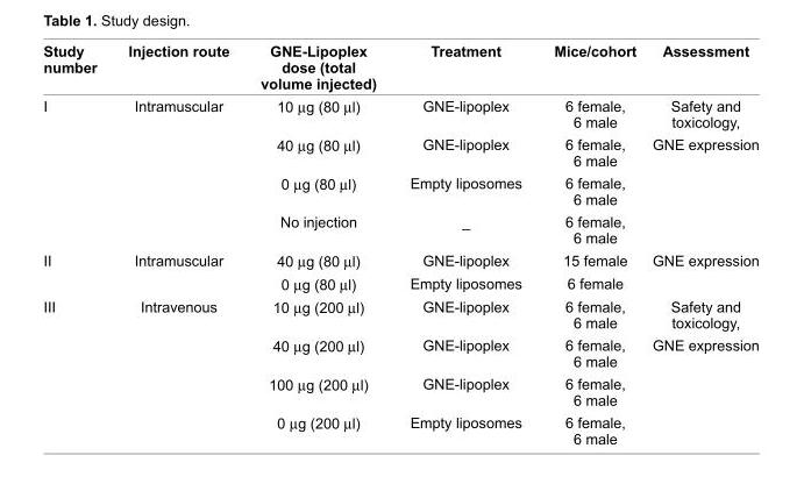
<table><thead><tr><td>Study number</td><td>Injection route</td><td>GNE-Lipoplex dose (total volume injected)</td><td>Treatment</td><td>Mice/cohort</td><td>Assessment</td></tr></thead><tbody><tr><td rowspan="4">I</td><td>Intramuscular</td><td>10 μg (80 μl)</td><td>GNE-lipoplex</td><td>6 female, 6 male</td><td>Safety and toxicology,</td></tr><tr><td></td><td>40 μg (80 μl)</td><td>GNE-lipoplex</td><td>6 female, 6 male</td><td>GNE expression</td></tr><tr><td></td><td>0 μg (80 μl)</td><td>Empty liposomes</td><td>6 female, 6 male</td><td></td></tr><tr><td></td><td>No injection</td><td>–</td><td>6 female, 6 male</td><td></td></tr><tr><td rowspan="2">II</td><td>Intramuscular</td><td>40 μg (80 μl)</td><td>GNE-lipoplex</td><td>15 female</td><td>GNE expression</td></tr><tr><td></td><td>0 μg (80 μl)</td><td>Empty liposomes</td><td>6 female</td><td></td></tr><tr><td rowspan="4">III</td><td>Intravenous</td><td>10 μg (200 μl)</td><td>GNE-lipoplex</td><td>6 female, 6 male</td><td>Safety and toxicology,</td></tr><tr><td></td><td>40 μg (200 μl)</td><td>GNE-lipoplex</td><td>6 female, 6 male</td><td>GNE expression</td></tr><tr><td></td><td>100 μg (200 μl)</td><td>GNE-lipoplex</td><td>6 female, 6 male</td><td></td></tr><tr><td></td><td>0 μg (200 μl)</td><td>Empty liposomes</td><td>6 female, 6 male</td><td></td></tr></tbody></table>